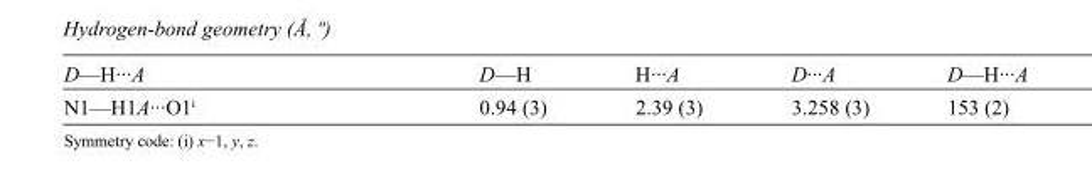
<table><tbody><tr><td>D—H···A</td><td>D—H</td><td>H···A</td><td>D···A</td><td>D—H···A</td></tr><tr><td>N1—H1A···O1<sup>i</sup></td><td>0.94 (3)</td><td>2.39 (3)</td><td>3.258 (3)</td><td>153 (2)</td></tr></tbody></table>